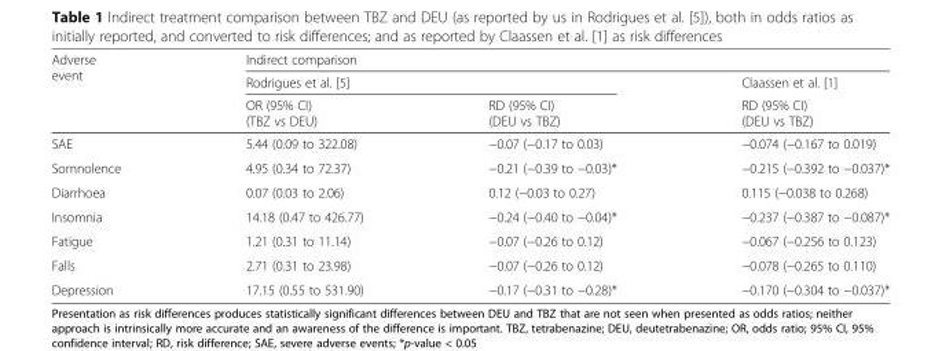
<table><thead><tr><td rowspan="3">Adverse event</td><td colspan="3">Indirect comparison</td></tr><tr><td colspan="2">Rodrigues et al. [5]</td><td rowspan="2">Claassen et al. [1] RD (95% CI) (DEU vs TBZ)</td></tr><tr><td>OR (95% CI) (TBZ vs DEU)</td><td>RD (95% CI) (DEU vs TBZ)</td></tr></thead><tbody><tr><td>SAE</td><td>5.44 (0.09 to 322.08)</td><td>−0.07 (−0.17 to 0.03)</td><td>−0.074 (−0.167 to 0.019)</td></tr><tr><td>Somnolence</td><td>4.95 (0.34 to 72.37)</td><td>−0.21 (−0.39 to −0.03)*</td><td>−0.215 (−0.392 to −0.037)*</td></tr><tr><td>Diarrhoea</td><td>0.07 (0.03 to 2.06)</td><td>0.12 (−0.03 to 0.27)</td><td>0.115 (−0.038 to 0.268)</td></tr><tr><td>Insomnia</td><td>14.18 (0.47 to 426.77)</td><td>−0.24 (−0.40 to −0.04)*</td><td>−0.237 (−0.387 to −0.087)*</td></tr><tr><td>Fatigue</td><td>1.21 (0.31 to 11.14)</td><td>−0.07 (−0.26 to 0.12)</td><td>−0.067 (−0.256 to 0.123)</td></tr><tr><td>Falls</td><td>2.71 (0.31 to 23.98)</td><td>−0.07 (−0.26 to 0.12)</td><td>−0.078 (−0.265 to 0.110)</td></tr><tr><td>Depression</td><td>17.15 (0.55 to 531.90)</td><td>−0.17 (−0.31 to −0.28)*</td><td>−0.170 (−0.304 to −0.037)*</td></tr></tbody></table>